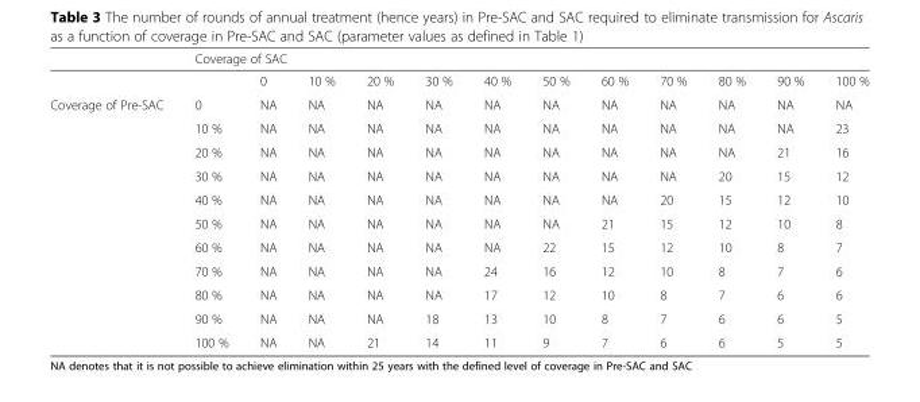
<table><thead><tr><td rowspan="2"></td><td colspan="12">Coverage of SAC</td></tr><tr><td></td><td>0</td><td>10 %</td><td>20 %</td><td>30 %</td><td>40 %</td><td>50 %</td><td>60 %</td><td>70 %</td><td>80 %</td><td>90 %</td><td>100 %</td></tr></thead><tbody><tr><td rowspan="11">Coverage of Pre-SAC</td><td>0</td><td>NA</td><td>NA</td><td>NA</td><td>NA</td><td>NA</td><td>NA</td><td>NA</td><td>NA</td><td>NA</td><td>NA</td><td>NA</td></tr><tr><td>10 %</td><td>NA</td><td>NA</td><td>NA</td><td>NA</td><td>NA</td><td>NA</td><td>NA</td><td>NA</td><td>NA</td><td>NA</td><td>23</td></tr><tr><td>20 %</td><td>NA</td><td>NA</td><td>NA</td><td>NA</td><td>NA</td><td>NA</td><td>NA</td><td>NA</td><td>NA</td><td>21</td><td>16</td></tr><tr><td>30 %</td><td>NA</td><td>NA</td><td>NA</td><td>NA</td><td>NA</td><td>NA</td><td>NA</td><td>NA</td><td>20</td><td>15</td><td>12</td></tr><tr><td>40 %</td><td>NA</td><td>NA</td><td>NA</td><td>NA</td><td>NA</td><td>NA</td><td>NA</td><td>20</td><td>15</td><td>12</td><td>10</td></tr><tr><td>50 %</td><td>NA</td><td>NA</td><td>NA</td><td>NA</td><td>NA</td><td>NA</td><td>21</td><td>15</td><td>12</td><td>10</td><td>8</td></tr><tr><td>60 %</td><td>NA</td><td>NA</td><td>NA</td><td>NA</td><td>NA</td><td>22</td><td>15</td><td>12</td><td>10</td><td>8</td><td>7</td></tr><tr><td>70 %</td><td>NA</td><td>NA</td><td>NA</td><td>NA</td><td>24</td><td>16</td><td>12</td><td>10</td><td>8</td><td>7</td><td>6</td></tr><tr><td>80 %</td><td>NA</td><td>NA</td><td>NA</td><td>NA</td><td>17</td><td>12</td><td>10</td><td>8</td><td>7</td><td>6</td><td>6</td></tr><tr><td>90 %</td><td>NA</td><td>NA</td><td>NA</td><td>18</td><td>13</td><td>10</td><td>8</td><td>7</td><td>6</td><td>6</td><td>5</td></tr><tr><td>100 %</td><td>NA</td><td>NA</td><td>21</td><td>14</td><td>11</td><td>9</td><td>7</td><td>6</td><td>6</td><td>5</td><td>5</td></tr></tbody></table>